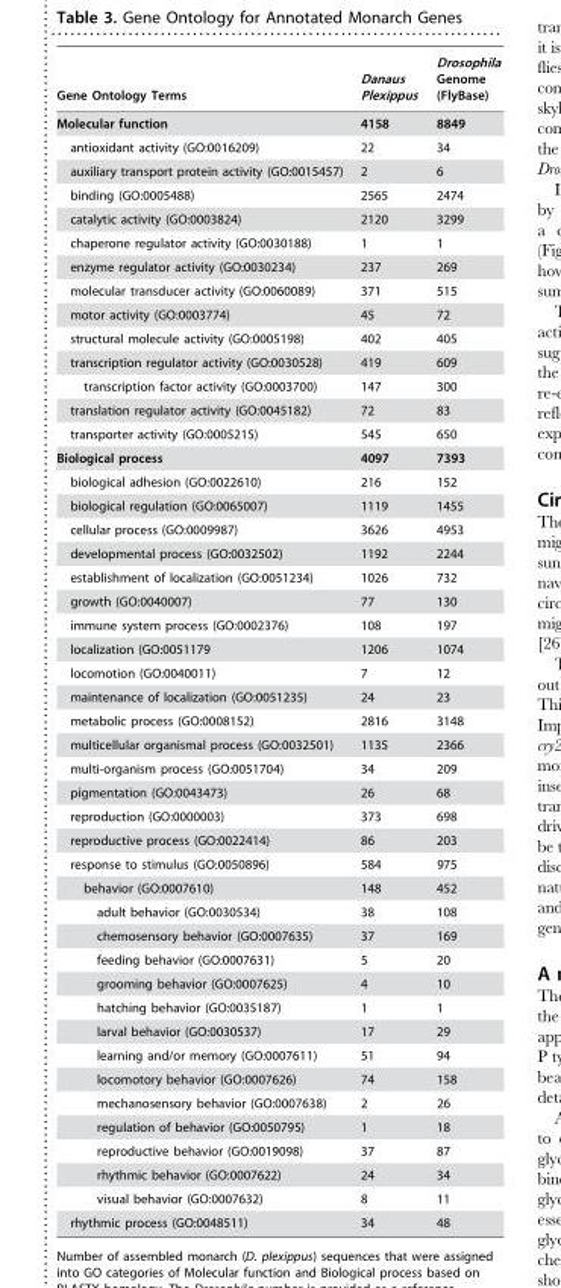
<table><thead><tr><td>Gene Ontology Terms</td><td>Danaus Plexippus</td><td>Drosophila Genome (FlyBase)</td></tr></thead><tbody><tr><td>Molecular function</td><td>4158</td><td>8849</td></tr><tr><td>antioxidant activity (GO:0016209)</td><td>22</td><td>34</td></tr><tr><td>auxiliary transport protein activity (GO:0015457)</td><td>2</td><td>6</td></tr><tr><td>binding (GO:0005488)</td><td>2565</td><td>2474</td></tr><tr><td>catalytic activity (GO:0003824)</td><td>2120</td><td>3299</td></tr><tr><td>chaperone regulator activity (GO:0030188)</td><td>1</td><td>1</td></tr><tr><td>enzyme regulator activity (GO:0030234)</td><td>237</td><td>269</td></tr><tr><td>molecular transducer activity (GO:0060089)</td><td>371</td><td>515</td></tr><tr><td>motor activity (GO:0003774)</td><td>45</td><td>72</td></tr><tr><td>structural molecule activity (GO:0005198)</td><td>402</td><td>405</td></tr><tr><td>transcription regulator activity (GO:0030528)</td><td>419</td><td>609</td></tr><tr><td>transcription factor activity (GO:0003700)</td><td>147</td><td>300</td></tr><tr><td>translation regulator activity (GO:0045182)</td><td>72</td><td>83</td></tr><tr><td>transporter activity (GO:0005215)</td><td>545</td><td>650</td></tr><tr><td>Biological process</td><td>4097</td><td>7393</td></tr><tr><td>biological adhesion (GO:0022610)</td><td>216</td><td>152</td></tr><tr><td>biological regulation (GO:0065007)</td><td>1119</td><td>1455</td></tr><tr><td>cellular process (GO:0009987)</td><td>3626</td><td>4953</td></tr><tr><td>developmental process (GO:0032502)</td><td>1192</td><td>2244</td></tr><tr><td>establishment of localization (GO:0051234)</td><td>1026</td><td>732</td></tr><tr><td>growth (GO:0040007)</td><td>77</td><td>130</td></tr><tr><td>immune system process (GO:0002376)</td><td>108</td><td>197</td></tr><tr><td>localization (GO:0051179</td><td>1206</td><td>1074</td></tr><tr><td>locomotion (GO:0040011)</td><td>7</td><td>12</td></tr><tr><td>maintenance of localization (GO:0051235)</td><td>24</td><td>23</td></tr><tr><td>metabolic process (GO:0008152)</td><td>2816</td><td>3148</td></tr><tr><td>multicellular organismal process (GO:0032501)</td><td>1135</td><td>2366</td></tr><tr><td>multi-organism process (GO:0051704)</td><td>34</td><td>209</td></tr><tr><td>pigmentation (GO:0043473)</td><td>26</td><td>68</td></tr><tr><td>reproduction (GO:0000003)</td><td>373</td><td>698</td></tr><tr><td>reproductive process (GO:0022414)</td><td>86</td><td>203</td></tr><tr><td>response to stimulus (GO:0050896)</td><td>584</td><td>975</td></tr><tr><td>behavior (GO:0007610)</td><td>148</td><td>452</td></tr><tr><td>adult behavior (GO:0030534)</td><td>38</td><td>108</td></tr><tr><td>chemosensory behavior (GO:0007635)</td><td>37</td><td>169</td></tr><tr><td>feeding behavior (GO:0007631)</td><td>5</td><td>20</td></tr><tr><td>grooming behavior (GO:0007625)</td><td>4</td><td>10</td></tr><tr><td>hatching behavior (GO:0035187)</td><td>1</td><td>1</td></tr><tr><td>larval behavior (GO:0030537)</td><td>17</td><td>29</td></tr><tr><td>learning and/or memory (GO:0007611)</td><td>51</td><td>94</td></tr><tr><td>locomotory behavior (GO:0007626)</td><td>74</td><td>158</td></tr><tr><td>mechanosensory behavior (GO:0007638)</td><td>2</td><td>26</td></tr><tr><td>regulation of behavior (GO:0050795)</td><td>1</td><td>18</td></tr><tr><td>reproductive behavior (GO:0019098)</td><td>37</td><td>87</td></tr><tr><td>rhythmic behavior (GO:0007622)</td><td>24</td><td>34</td></tr><tr><td>visual behavior (GO:0007632)</td><td>8</td><td>11</td></tr><tr><td>rhythmic process (GO:0048511)</td><td>34</td><td>48</td></tr></tbody></table>